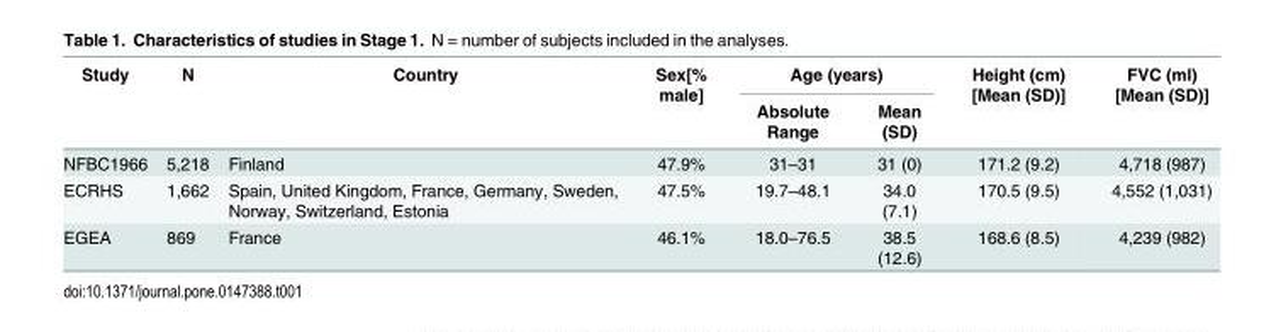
<table><thead><tr><td rowspan="2">Study</td><td rowspan="2">N</td><td rowspan="2">Country</td><td rowspan="2">Sex[% male]</td><td colspan="2">Age (years)</td><td rowspan="2">Height (cm) [Mean (SD)]</td><td rowspan="2">FVC (ml) [Mean (SD)]</td></tr><tr><td>Absolute Range</td><td>Mean (SD)</td></tr></thead><tbody><tr><td>NFBC1966</td><td>5,218</td><td>Finland</td><td>47.9%</td><td>31–31</td><td>31 (0)</td><td>171.2 (9.2)</td><td>4,718 (987)</td></tr><tr><td>ECRHS</td><td>1,662</td><td>Spain, United Kingdom, France, Germany, Sweden, Norway, Switzerland, Estonia</td><td>47.5%</td><td>19.7–48.1</td><td>34.0 (7.1)</td><td>170.5 (9.5)</td><td>4,552 (1,031)</td></tr><tr><td>EGEA</td><td>869</td><td>France</td><td>46.1%</td><td>18.0–76.5</td><td>38.5 (12.6)</td><td>168.6 (8.5)</td><td>4,239 (982)</td></tr></tbody></table>